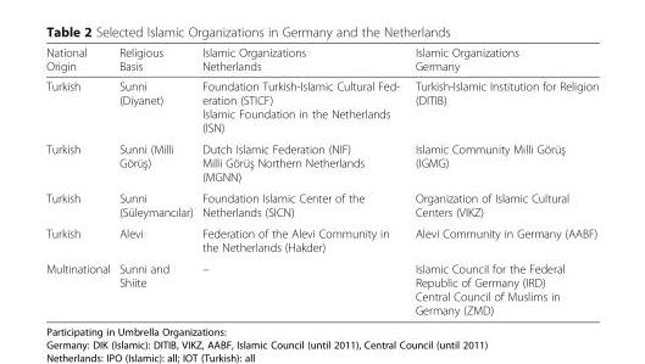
<table><thead><tr><td>National Origin</td><td>Religious Basis</td><td>Islamic Organizations Netherlands</td><td>Islamic Organizations Germany</td></tr></thead><tbody><tr><td>Turkish</td><td>Sunni (Diyanet)</td><td>Foundation Turkish-Islamic Cultural Fed- eration (STICF) Islamic Foundation in the Netherlands (ISN)</td><td>Turkish-Islamic Institution for Religion (DITIB)</td></tr><tr><td>Turkish</td><td>Sunni (Milli Görüş)</td><td>Dutch Islamic Federation (NIF) Milli Görüş Northern Netherlands (MGNN)</td><td>Islamic Community Milli Görüş (IGMG)</td></tr><tr><td>Turkish</td><td>Sunni (Süleymancılar)</td><td>Foundation Islamic Center of the Netherlands (SICN)</td><td>Organization of Islamic Cultural Centers (VIKZ)</td></tr><tr><td>Turkish</td><td>Alevi</td><td>Federation of the Alevi Community in the Netherlands (Hakder)</td><td>Alevi Community in Germany (AABF)</td></tr><tr><td>Multinational</td><td>Sunni and Shiite</td><td>–</td><td>Islamic Council for the Federal Republic of Germany (IRD) Central Council of Muslims in Germany (ZMD)</td></tr></tbody></table>